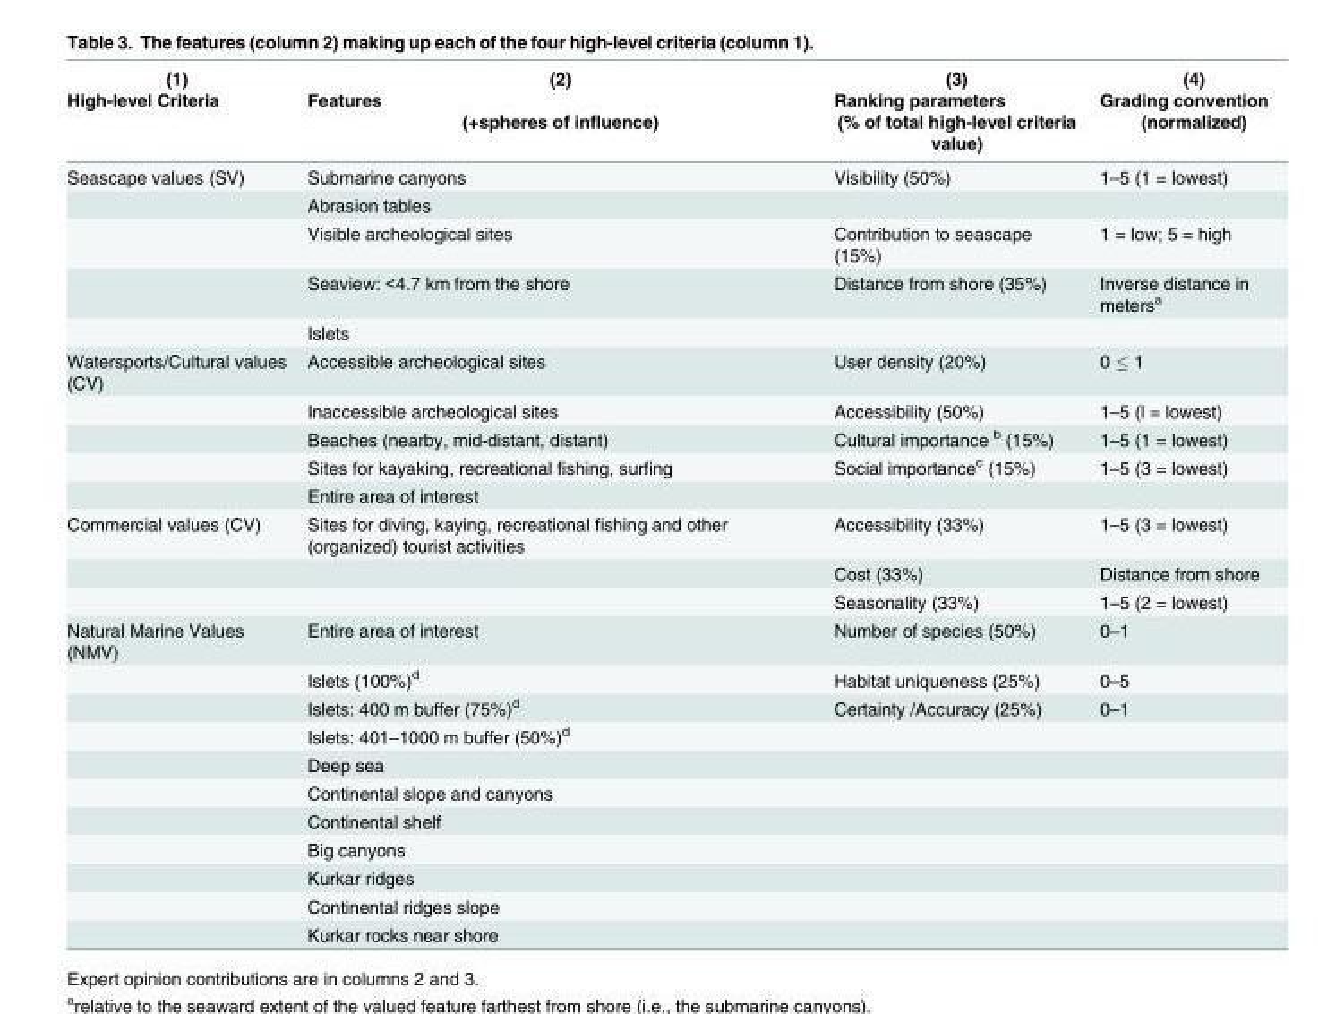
<table><thead><tr><td rowspan="3">(1) High-level Criteria</td><td rowspan="3">(2) Features (+spheres of influence)</td><td rowspan="3">(3) Ranking parameters (% of total high-level criteria value)</td><td rowspan="3">(4) Grading convention (normalized)</td></tr><tr></tr><tr></tr></thead><tbody><tr><td rowspan="5">Seascape values (SV)</td><td>Submarine canyons</td><td>Visibility (50%)</td><td>1–5 (1 = lowest)</td></tr><tr><td>Abrasion tables</td><td></td><td></td></tr><tr><td>Visible archeological sites</td><td>Contribution to seascape (15%)</td><td>1 = low; 5 = high</td></tr><tr><td>Seaview: &lt;4.7 km from the shore</td><td>Distance from shore (35%)</td><td>Inverse distance in meters<sup>a</sup></td></tr><tr><td>Islets</td><td></td><td></td></tr><tr><td rowspan="5">Watersports/Cultural values (CV)</td><td>Accessible archeological sites</td><td>User density (20%)</td><td>0 ≤ 1</td></tr><tr><td>Inaccessible archeological sites</td><td>Accessibility (50%)</td><td>1–5 (l = lowest)</td></tr><tr><td>Beaches (nearby, mid-distant, distant)</td><td>Cultural importance <sup>b</sup> (15%)</td><td>1–5 (1 = lowest)</td></tr><tr><td>Sites for kayaking, recreational fishing, surfing</td><td>Social importance<sup>c</sup> (15%)</td><td>1–5 (3 = lowest)</td></tr><tr><td>Entire area of interest</td><td></td><td></td></tr><tr><td rowspan="3">Commercial values (CV)</td><td>Sites for diving, kaying, recreational fishing and other (organized) tourist activities</td><td>Accessibility (33%)</td><td>1–5 (3 = lowest)</td></tr><tr><td></td><td>Cost (33%)</td><td>Distance from shore</td></tr><tr><td></td><td>Seasonality (33%)</td><td>1–5 (2 = lowest)</td></tr><tr><td rowspan="11">Natural Marine Values (NMV)</td><td>Entire area of interest</td><td>Number of species (50%)</td><td>0–1</td></tr><tr><td>Islets (100%)<sup>d</sup></td><td>Habitat uniqueness (25%)</td><td>0–5</td></tr><tr><td>Islets: 400 m buffer (75%)<sup>d</sup></td><td>Certainty /Accuracy (25%)</td><td>0–1</td></tr><tr><td>Islets: 401–1000 m buffer (50%)<sup>d</sup></td><td></td><td></td></tr><tr><td>Deep sea</td><td></td><td></td></tr><tr><td>Continental slope and canyons</td><td></td><td></td></tr><tr><td>Continental shelf</td><td></td><td></td></tr><tr><td>Big canyons</td><td></td><td></td></tr><tr><td>Kurkar ridges</td><td></td><td></td></tr><tr><td>Continental ridges slope</td><td></td><td></td></tr><tr><td>Kurkar rocks near shore</td><td></td><td></td></tr></tbody></table>